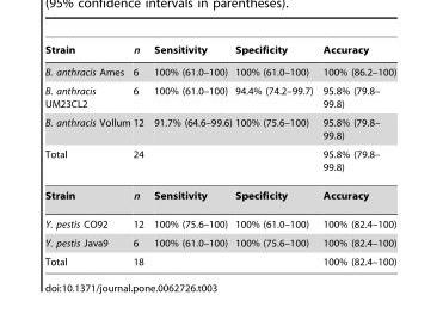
<table><thead><tr><td>Strain</td><td>n</td><td>Sensitivity</td><td>Specificity</td><td>Accuracy</td></tr></thead><tbody><tr><td>B. anthracis Ames</td><td>6</td><td>100% (61.0–100)</td><td>100% (61.0–100)</td><td>100% (86.2–100)</td></tr><tr><td>B. anthracis UM23CL2</td><td>6</td><td>100% (61.0–100)</td><td>94.4% (74.2–99.7)</td><td>95.8% (79.8– 99.8)</td></tr><tr><td>B. anthracis Vollum</td><td>12</td><td>91.7% (64.6–99.6)</td><td>100% (75.6–100)</td><td>95.8% (79.8– 99.8)</td></tr><tr><td>Total</td><td>24</td><td></td><td></td><td>95.8% (79.8– 99.8)</td></tr><tr><td>Strain</td><td>n</td><td>Sensitivity</td><td>Specificity</td><td>Accuracy</td></tr><tr><td>Y. pestis CO92</td><td>12</td><td>100% (75.6–100)</td><td>100% (61.0–100)</td><td>100% (82.4–100)</td></tr><tr><td>Y. pestis Java9</td><td>6</td><td>100% (61.0–100)</td><td>100% (75.6–100)</td><td>100% (82.4–100)</td></tr><tr><td>Total</td><td>18</td><td></td><td></td><td>100% (82.4–100)</td></tr></tbody></table>